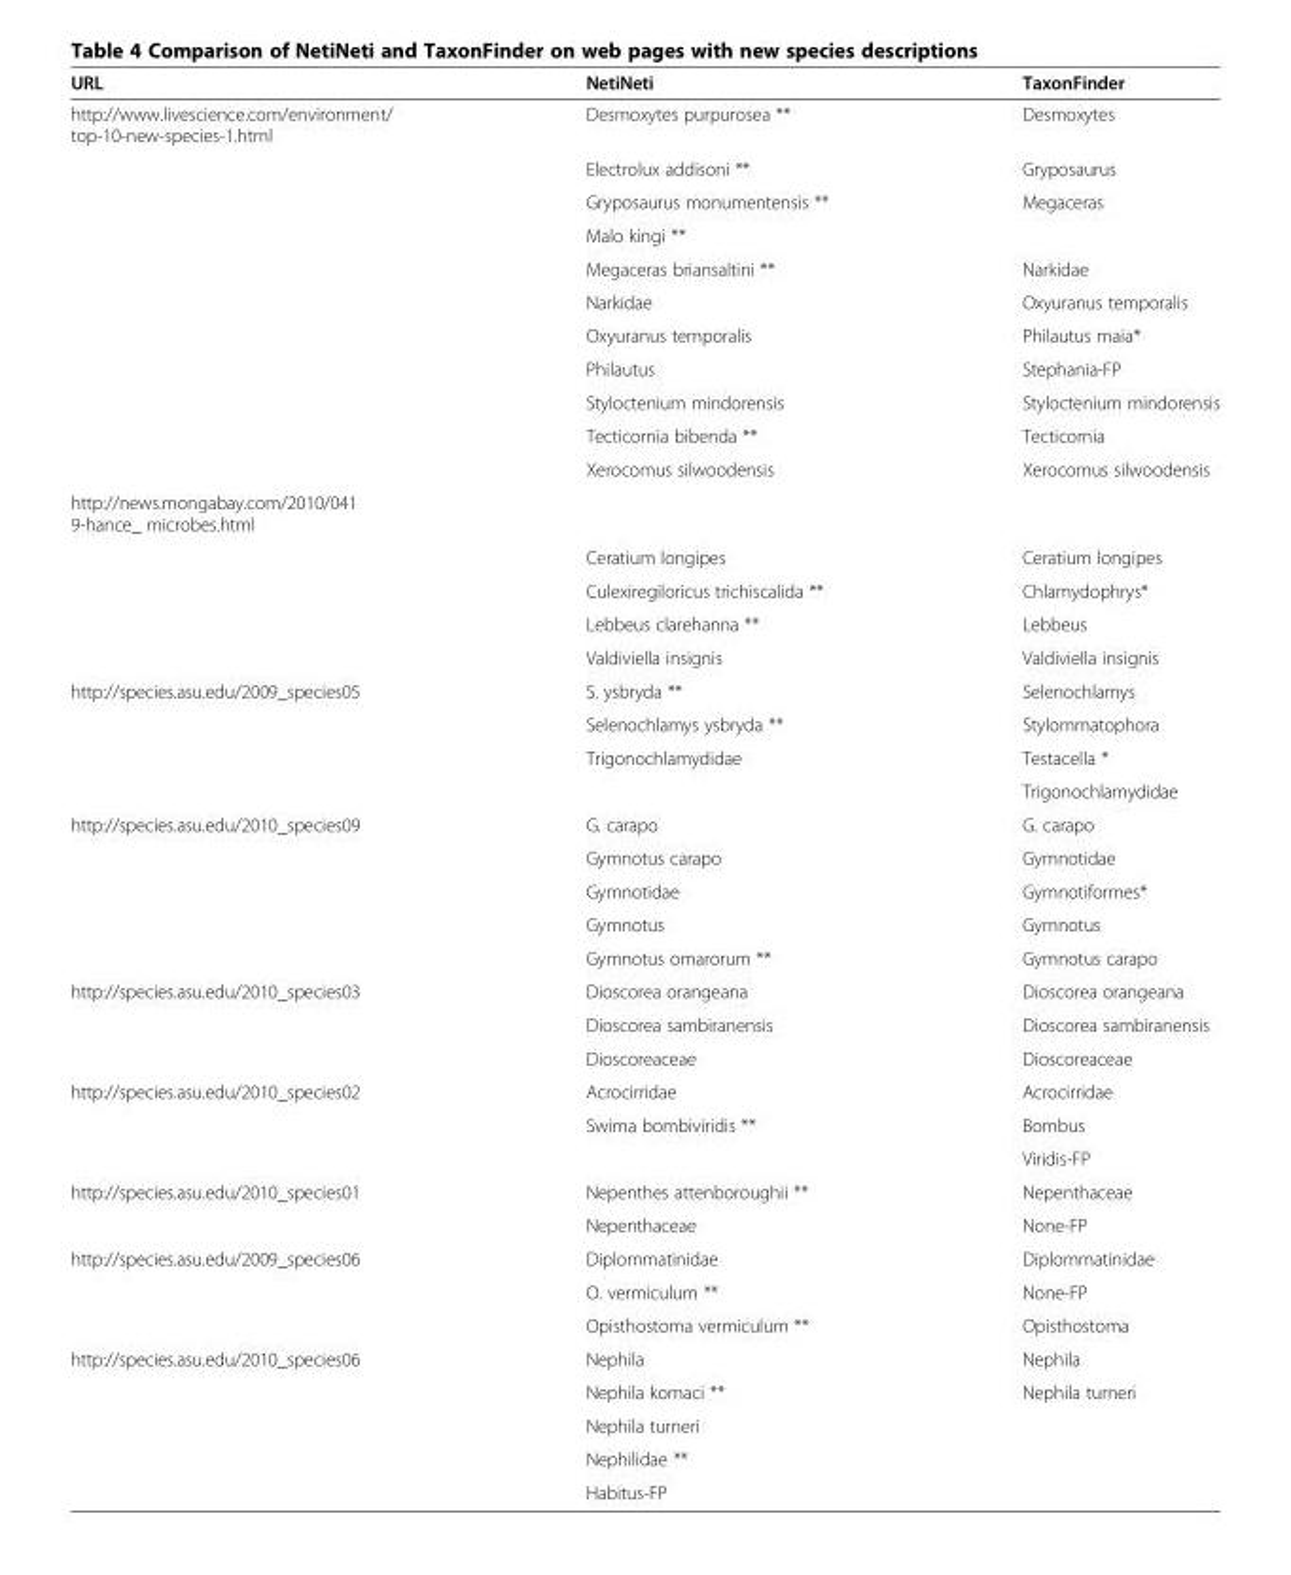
<table><thead><tr><td>URL</td><td>NetiNeti</td><td>TaxonFinder</td></tr></thead><tbody><tr><td rowspan="11">http://www.livescience.com/environment/ top-10-new-species-1.html</td><td>Desmoxytes purpurosea **</td><td>Desmoxytes</td></tr><tr><td>Electrolux addisoni **</td><td>Gryposaurus</td></tr><tr><td>Gryposaurus monumentensis **</td><td>Megaceras</td></tr><tr><td>Malo kingi **</td><td></td></tr><tr><td>Megaceras briansaltini **</td><td>Narkidae</td></tr><tr><td>Narkidae</td><td>Oxyuranus temporalis</td></tr><tr><td>Oxyuranus temporalis</td><td>Philautus maia*</td></tr><tr><td>Philautus</td><td>Stephania-FP</td></tr><tr><td>Styloctenium mindorensis</td><td>Styloctenium mindorensis</td></tr><tr><td>Tecticornia bibenda **</td><td>Tecticornia</td></tr><tr><td>Xerocomus silwoodensis</td><td>Xerocomus silwoodensis</td></tr><tr><td colspan="3">http://news.mongabay.com/2010/041 9-hance_ microbes.html</td></tr><tr><td></td><td>Ceratium longipes</td><td>Ceratium longipes</td></tr><tr><td></td><td>Culexiregiloricus trichiscalida **</td><td>Chlamydophrys*</td></tr><tr><td></td><td>Lebbeus clarehanna **</td><td>Lebbeus</td></tr><tr><td></td><td>Valdiviella insignis</td><td>Valdiviella insignis</td></tr><tr><td rowspan="4">http://species.asu.edu/2009_species05</td><td>S. ysbryda **</td><td>Selenochlamys</td></tr><tr><td>Selenochlamys ysbryda **</td><td>Stylommatophora</td></tr><tr><td>Trigonochlamydidae</td><td>Testacella *</td></tr><tr><td></td><td>Trigonochlamydidae</td></tr><tr><td rowspan="5">http://species.asu.edu/2010_species09</td><td>G. carapo</td><td>G. carapo</td></tr><tr><td>Gymnotus carapo</td><td>Gymnotidae</td></tr><tr><td>Gymnotidae</td><td>Gymnotiformes*</td></tr><tr><td>Gymnotus</td><td>Gymnotus</td></tr><tr><td>Gymnotus omarorum **</td><td>Gymnotus carapo</td></tr><tr><td rowspan="3">http://species.asu.edu/2010_species03</td><td>Dioscorea orangeana</td><td>Dioscorea orangeana</td></tr><tr><td>Dioscorea sambiranensis</td><td>Dioscorea sambiranensis</td></tr><tr><td>Dioscoreaceae</td><td>Dioscoreaceae</td></tr><tr><td rowspan="3">http://species.asu.edu/2010_species02</td><td>Acrocirridae</td><td>Acrocirridae</td></tr><tr><td>Swima bombiviridis **</td><td>Bombus</td></tr><tr><td></td><td>Viridis-FP</td></tr><tr><td rowspan="2">http://species.asu.edu/2010_species01</td><td>Nepenthes attenboroughii **</td><td>Nepenthaceae</td></tr><tr><td>Nepenthaceae</td><td>None-FP</td></tr><tr><td rowspan="3">http://species.asu.edu/2009_species06</td><td>Diplommatinidae</td><td>Diplommatinidae</td></tr><tr><td>O. vermiculum **</td><td>None-FP</td></tr><tr><td>Opisthostoma vermiculum **</td><td>Opisthostoma</td></tr><tr><td rowspan="5">http://species.asu.edu/2010_species06</td><td>Nephila</td><td>Nephila</td></tr><tr><td>Nephila komaci **</td><td>Nephila turneri</td></tr><tr><td>Nephila turneri</td><td></td></tr><tr><td>Nephilidae **</td><td></td></tr><tr><td>Habitus-FP</td><td></td></tr></tbody></table>